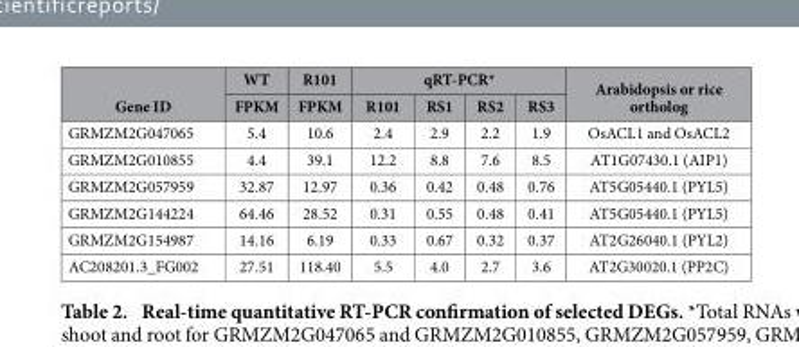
<table><thead><tr><td rowspan="2">Gene ID</td><td rowspan="2">WT FPKM</td><td rowspan="2">R101 FPKM</td><td colspan="4">qRT-PCR*</td><td rowspan="2">Arabidopsis or rice ortholog</td></tr><tr><td>R101</td><td>RS1</td><td>RS2</td><td>RS3</td></tr></thead><tbody><tr><td>GRMZM2G047065</td><td>5.4</td><td>10.6</td><td>2.4</td><td>2.9</td><td>2.2</td><td>1.9</td><td>OsACL1 and OsACL2</td></tr><tr><td>GRMZM2G010855</td><td>4.4</td><td>39.1</td><td>12.2</td><td>8.8</td><td>7.6</td><td>8.5</td><td>AT1G07430.1 (AIP1)</td></tr><tr><td>GRMZM2G057959</td><td>32.87</td><td>12.97</td><td>0.36</td><td>0.42</td><td>0.48</td><td>0.76</td><td>AT5G05440.1 (PYL5)</td></tr><tr><td>GRMZM2G144224</td><td>64.46</td><td>28.52</td><td>0.31</td><td>0.55</td><td>0.48</td><td>0.41</td><td>AT5G05440.1 (PYL5)</td></tr><tr><td>GRMZM2G154987</td><td>14.16</td><td>6.19</td><td>0.33</td><td>0.67</td><td>0.32</td><td>0.37</td><td>AT2G26040.1 (PYL2)</td></tr><tr><td>AC208201.3_FG002</td><td>27.51</td><td>118.40</td><td>5.5</td><td>4.0</td><td>2.7</td><td>3.6</td><td>AT2G30020.1 (PP2C)</td></tr></tbody></table>